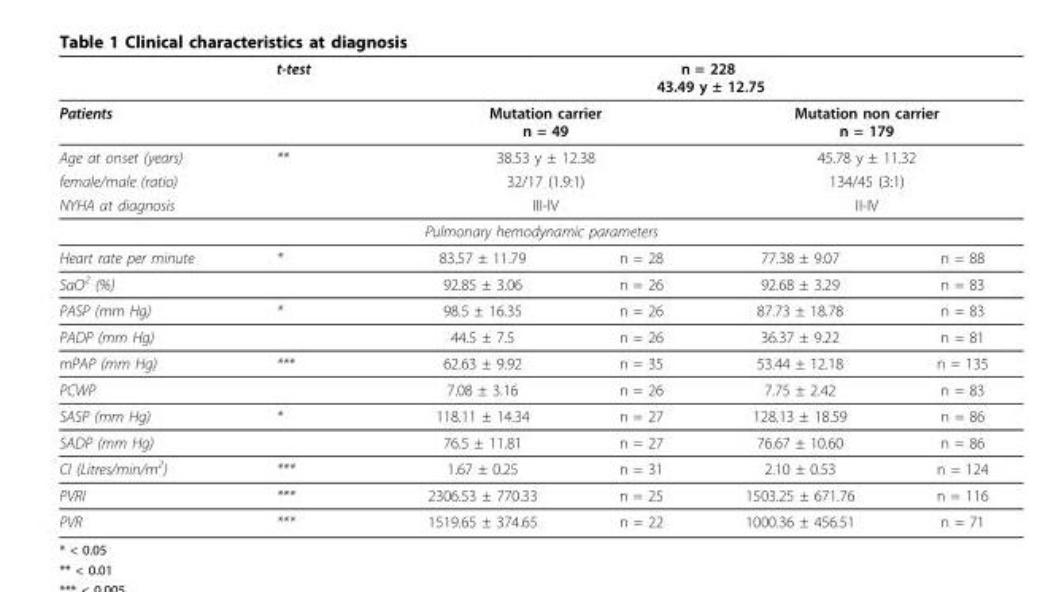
<table><thead><tr><td></td><td>t-test</td><td colspan="4">n = 228 43.49 y ± 12.75</td></tr></thead><tbody><tr><td>Patients</td><td></td><td colspan="2">Mutation carrier n = 49</td><td colspan="2">Mutation non carrier n = 179</td></tr><tr><td>Age at onset (years)</td><td>**</td><td colspan="2">38.53 y ± 12.38</td><td colspan="2">45.78 y ± 11.32</td></tr><tr><td>female/male (ratio)</td><td></td><td colspan="2">32/17 (1.9:1)</td><td colspan="2">134/45 (3:1)</td></tr><tr><td>NYHA at diagnosis</td><td></td><td colspan="2">III-IV</td><td colspan="2">II-IV</td></tr><tr><td colspan="6">Pulmonary hemodynamic parameters</td></tr><tr><td>Heart rate per minute</td><td>*</td><td>83.57 ± 11.79</td><td>n = 28</td><td>77.38 ± 9.07</td><td>n = 88</td></tr><tr><td>SaO<sup>2</sup> (%)</td><td></td><td>92.85 ± 3.06</td><td>n = 26</td><td>92.68 ± 3.29</td><td>n = 83</td></tr><tr><td>PASP (mm Hg)</td><td>*</td><td>98.5 ± 16.35</td><td>n = 26</td><td>87.73 ± 18.78</td><td>n = 83</td></tr><tr><td>PADP (mm Hg)</td><td></td><td>44.5 ± 7.5</td><td>n = 26</td><td>36.37 ± 9.22</td><td>n = 81</td></tr><tr><td>mPAP (mm Hg)</td><td>***</td><td>62.63 ± 9.92</td><td>n = 35</td><td>53.44 ± 12.18</td><td>n = 135</td></tr><tr><td>PCWP</td><td></td><td>7.08 ± 3.16</td><td>n = 26</td><td>7.75 ± 2.42</td><td>n = 83</td></tr><tr><td>SASP (mm Hg)</td><td>*</td><td>118.11 ± 14.34</td><td>n = 27</td><td>128.13 ± 18.59</td><td>n = 86</td></tr><tr><td>SADP (mm Hg)</td><td></td><td>76.5 ± 11.81</td><td>n = 27</td><td>76.67 ± 10.60</td><td>n = 86</td></tr><tr><td>CI (Litres/min/m<sup>2</sup>)</td><td>***</td><td>1.67 ± 0.25</td><td>n = 31</td><td>2.10 ± 0.53</td><td>n = 124</td></tr><tr><td>PVRI</td><td>***</td><td>2306.53 ± 770.33</td><td>n = 25</td><td>1503.25 ± 671.76</td><td>n = 116</td></tr><tr><td>PVR</td><td>***</td><td>1519.65 ± 374.65</td><td>n = 22</td><td>1000.36 ± 456.51</td><td>n = 71</td></tr></tbody></table>